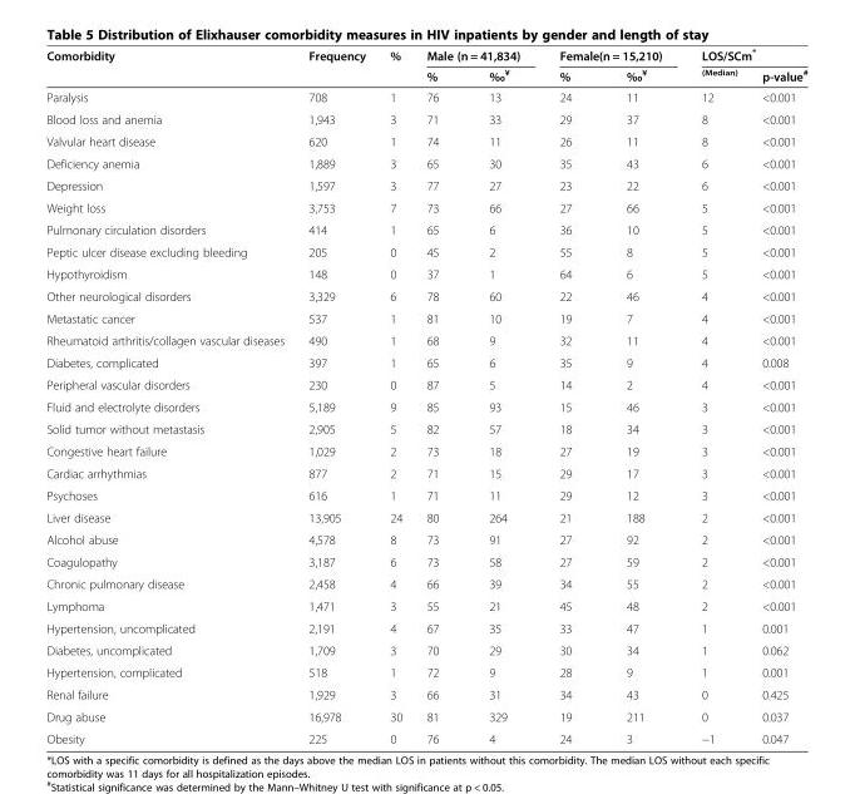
<table><thead><tr><td rowspan="2">Comorbidity</td><td rowspan="2">Frequency</td><td rowspan="2">%</td><td colspan="2">Male (n = 41,834)</td><td colspan="2">Female(n = 15,210)</td><td colspan="2">LOS/SCm*</td></tr><tr><td>%</td><td>‰<sup>¥</sup></td><td>%</td><td>‰<sup>¥</sup></td><td><sup>(Median)</sup></td><td>p-value<sup>#</sup></td></tr></thead><tbody><tr><td>Paralysis</td><td>708</td><td>1</td><td>76</td><td>13</td><td>24</td><td>11</td><td>12</td><td>&lt;0.001</td></tr><tr><td>Blood loss and anemia</td><td>1,943</td><td>3</td><td>71</td><td>33</td><td>29</td><td>37</td><td>8</td><td>&lt;0.001</td></tr><tr><td>Valvular heart disease</td><td>620</td><td>1</td><td>74</td><td>11</td><td>26</td><td>11</td><td>8</td><td>&lt;0.001</td></tr><tr><td>Deficiency anemia</td><td>1,889</td><td>3</td><td>65</td><td>30</td><td>35</td><td>43</td><td>6</td><td>&lt;0.001</td></tr><tr><td>Depression</td><td>1,597</td><td>3</td><td>77</td><td>27</td><td>23</td><td>22</td><td>6</td><td>&lt;0.001</td></tr><tr><td>Weight loss</td><td>3,753</td><td>7</td><td>73</td><td>66</td><td>27</td><td>66</td><td>5</td><td>&lt;0.001</td></tr><tr><td>Pulmonary circulation disorders</td><td>414</td><td>1</td><td>65</td><td>6</td><td>36</td><td>10</td><td>5</td><td>&lt;0.001</td></tr><tr><td>Peptic ulcer disease excluding bleeding</td><td>205</td><td>0</td><td>45</td><td>2</td><td>55</td><td>8</td><td>5</td><td>&lt;0.001</td></tr><tr><td>Hypothyroidism</td><td>148</td><td>0</td><td>37</td><td>1</td><td>64</td><td>6</td><td>5</td><td>&lt;0.001</td></tr><tr><td>Other neurological disorders</td><td>3,329</td><td>6</td><td>78</td><td>60</td><td>22</td><td>46</td><td>4</td><td>&lt;0.001</td></tr><tr><td>Metastatic cancer</td><td>537</td><td>1</td><td>81</td><td>10</td><td>19</td><td>7</td><td>4</td><td>&lt;0.001</td></tr><tr><td>Rheumatoid arthritis/collagen vascular diseases</td><td>490</td><td>1</td><td>68</td><td>9</td><td>32</td><td>11</td><td>4</td><td>&lt;0.001</td></tr><tr><td>Diabetes, complicated</td><td>397</td><td>1</td><td>65</td><td>6</td><td>35</td><td>9</td><td>4</td><td>0.008</td></tr><tr><td>Peripheral vascular disorders</td><td>230</td><td>0</td><td>87</td><td>5</td><td>14</td><td>2</td><td>4</td><td>&lt;0.001</td></tr><tr><td>Fluid and electrolyte disorders</td><td>5,189</td><td>9</td><td>85</td><td>93</td><td>15</td><td>46</td><td>3</td><td>&lt;0.001</td></tr><tr><td>Solid tumor without metastasis</td><td>2,905</td><td>5</td><td>82</td><td>57</td><td>18</td><td>34</td><td>3</td><td>&lt;0.001</td></tr><tr><td>Congestive heart failure</td><td>1,029</td><td>2</td><td>73</td><td>18</td><td>27</td><td>19</td><td>3</td><td>&lt;0.001</td></tr><tr><td>Cardiac arrhythmias</td><td>877</td><td>2</td><td>71</td><td>15</td><td>29</td><td>17</td><td>3</td><td>&lt;0.001</td></tr><tr><td>Psychoses</td><td>616</td><td>1</td><td>71</td><td>11</td><td>29</td><td>12</td><td>3</td><td>&lt;0.001</td></tr><tr><td>Liver disease</td><td>13,905</td><td>24</td><td>80</td><td>264</td><td>21</td><td>188</td><td>2</td><td>&lt;0.001</td></tr><tr><td>Alcohol abuse</td><td>4,578</td><td>8</td><td>73</td><td>91</td><td>27</td><td>92</td><td>2</td><td>&lt;0.001</td></tr><tr><td>Coagulopathy</td><td>3,187</td><td>6</td><td>73</td><td>58</td><td>27</td><td>59</td><td>2</td><td>&lt;0.001</td></tr><tr><td>Chronic pulmonary disease</td><td>2,458</td><td>4</td><td>66</td><td>39</td><td>34</td><td>55</td><td>2</td><td>&lt;0.001</td></tr><tr><td>Lymphoma</td><td>1,471</td><td>3</td><td>55</td><td>21</td><td>45</td><td>48</td><td>2</td><td>&lt;0.001</td></tr><tr><td>Hypertension, uncomplicated</td><td>2,191</td><td>4</td><td>67</td><td>35</td><td>33</td><td>47</td><td>1</td><td>0.001</td></tr><tr><td>Diabetes, uncomplicated</td><td>1,709</td><td>3</td><td>70</td><td>29</td><td>30</td><td>34</td><td>1</td><td>0.062</td></tr><tr><td>Hypertension, complicated</td><td>518</td><td>1</td><td>72</td><td>9</td><td>28</td><td>9</td><td>1</td><td>0.001</td></tr><tr><td>Renal failure</td><td>1,929</td><td>3</td><td>66</td><td>31</td><td>34</td><td>43</td><td>0</td><td>0.425</td></tr><tr><td>Drug abuse</td><td>16,978</td><td>30</td><td>81</td><td>329</td><td>19</td><td>211</td><td>0</td><td>0.037</td></tr><tr><td>Obesity</td><td>225</td><td>0</td><td>76</td><td>4</td><td>24</td><td>3</td><td>−1</td><td>0.047</td></tr></tbody></table>